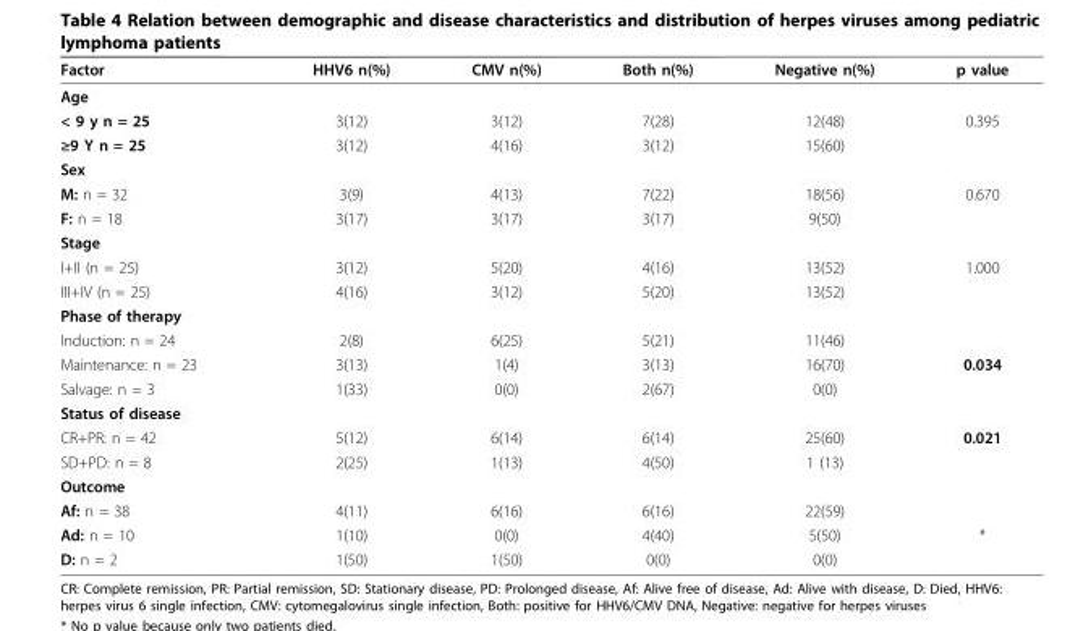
<table><thead><tr><td>Factor</td><td>HHV6 n(%)</td><td>CMV n(%)</td><td>Both n(%)</td><td>Negative n(%)</td><td>p value</td></tr></thead><tbody><tr><td colspan="6">Age</td></tr><tr><td>&lt; 9 y n = 25</td><td>3(12)</td><td>3(12)</td><td>7(28)</td><td>12(48)</td><td>0.395</td></tr><tr><td>≥9 Y n = 25</td><td>3(12)</td><td>4(16)</td><td>3(12)</td><td>15(60)</td><td></td></tr><tr><td colspan="6">Sex</td></tr><tr><td>M: n = 32</td><td>3(9)</td><td>4(13)</td><td>7(22)</td><td>18(56)</td><td>0.670</td></tr><tr><td>F: n = 18</td><td>3(17)</td><td>3(17)</td><td>3(17)</td><td>9(50)</td><td></td></tr><tr><td colspan="6">Stage</td></tr><tr><td>I+II (n = 25)</td><td>3(12)</td><td>5(20)</td><td>4(16)</td><td>13(52)</td><td>1.000</td></tr><tr><td>III+IV (n = 25)</td><td>4(16)</td><td>3(12)</td><td>5(20)</td><td>13(52)</td><td></td></tr><tr><td colspan="6">Phase of therapy</td></tr><tr><td>Induction: n = 24</td><td>2(8)</td><td>6(25)</td><td>5(21)</td><td>11(46)</td><td></td></tr><tr><td>Maintenance: n = 23</td><td>3(13)</td><td>1(4)</td><td>3(13)</td><td>16(70)</td><td>0.034</td></tr><tr><td>Salvage: n = 3</td><td>1(33)</td><td>0(0)</td><td>2(67)</td><td>0(0)</td><td></td></tr><tr><td colspan="6">Status of disease</td></tr><tr><td>CR+PR: n = 42</td><td>5(12)</td><td>6(14)</td><td>6(14)</td><td>25(60)</td><td>0.021</td></tr><tr><td>SD+PD: n = 8</td><td>2(25)</td><td>1(13)</td><td>4(50)</td><td>1 (13)</td><td></td></tr><tr><td colspan="6">Outcome</td></tr><tr><td>Af: n = 38</td><td>4(11)</td><td>6(16)</td><td>6(16)</td><td>22(59)</td><td></td></tr><tr><td>Ad: n = 10</td><td>1(10)</td><td>0(0)</td><td>4(40)</td><td>5(50)</td><td>*</td></tr><tr><td>D: n = 2</td><td>1(50)</td><td>1(50)</td><td>0(0)</td><td>0(0)</td><td></td></tr></tbody></table>